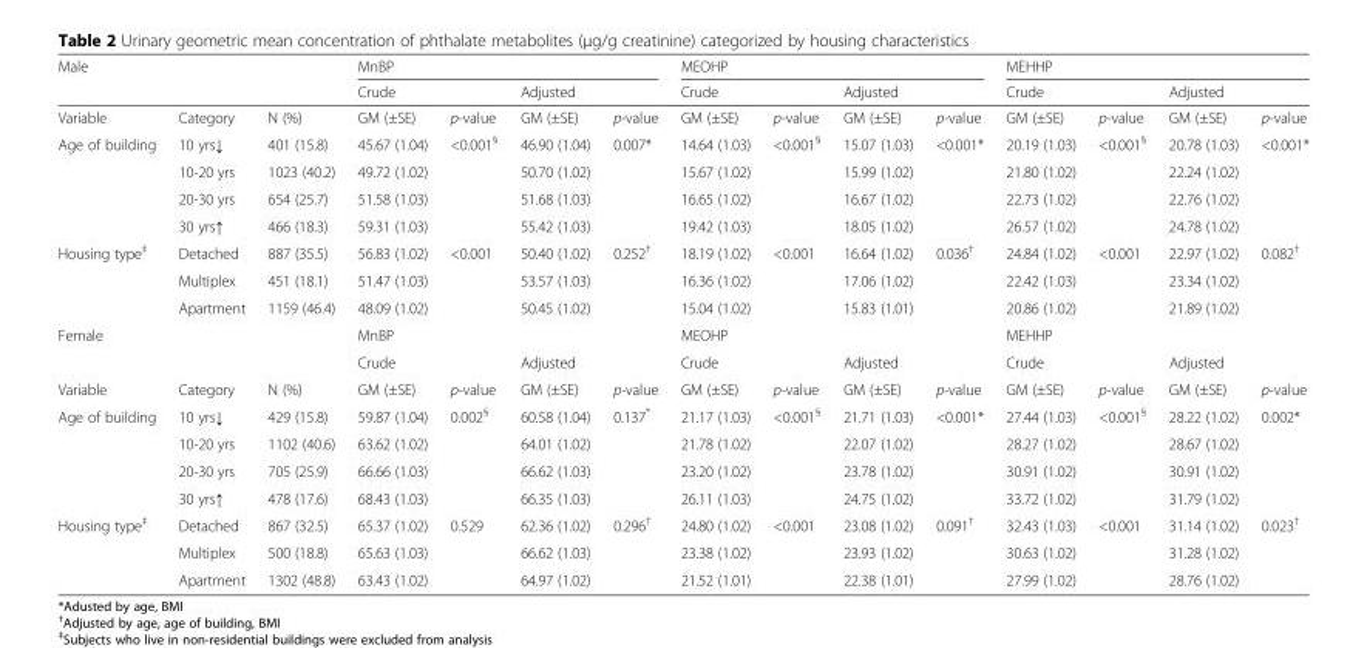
<table><thead><tr><td rowspan="2" colspan="3">Male</td><td colspan="4">MnBP</td><td colspan="4">MEOHP</td><td colspan="4">MEHHP</td></tr><tr><td colspan="2">Crude</td><td colspan="2">Adjusted</td><td colspan="2">Crude</td><td colspan="2">Adjusted</td><td colspan="2">Crude</td><td colspan="2">Adjusted</td></tr><tr><td>Variable</td><td>Category</td><td>N (%)</td><td>GM (±SE)</td><td>p-value</td><td>GM (±SE)</td><td>p-value</td><td>GM (±SE)</td><td>p-value</td><td>GM (±SE)</td><td>p-value</td><td>GM (±SE)</td><td>p-value</td><td>GM (±SE)</td><td>p-value</td></tr></thead><tbody><tr><td rowspan="4">Age of building</td><td>10 yrs↓</td><td>401 (15.8)</td><td>45.67 (1.04)</td><td>&lt;0.001<sup>§</sup></td><td>46.90 (1.04)</td><td>0.007*</td><td>14.64 (1.03)</td><td rowspan="4">&lt;0.001<sup>§</sup></td><td>15.07 (1.03)</td><td rowspan="4">&lt;0.001*</td><td>20.19 (1.03)</td><td rowspan="4">&lt;0.001<sup>§</sup></td><td>20.78 (1.03)</td><td rowspan="4">&lt;0.001*</td></tr><tr><td>10-20 yrs</td><td>1023 (40.2)</td><td>49.72 (1.02)</td><td></td><td>50.70 (1.02)</td><td></td><td>15.67 (1.02)</td><td>15.99 (1.02)</td><td>21.80 (1.02)</td><td>22.24 (1.02)</td></tr><tr><td>20-30 yrs</td><td>654 (25.7)</td><td>51.58 (1.03)</td><td></td><td>51.68 (1.03)</td><td></td><td>16.65 (1.02)</td><td>16.67 (1.02)</td><td>22.73 (1.02)</td><td>22.76 (1.02)</td></tr><tr><td>30 yrs↑</td><td>466 (18.3)</td><td>59.31 (1.03)</td><td></td><td>55.42 (1.03)</td><td></td><td>19.42 (1.03)</td><td>18.05 (1.02)</td><td>26.57 (1.02)</td><td>24.78 (1.02)</td></tr><tr><td rowspan="3">Housing type<sup>‡</sup></td><td>Detached</td><td>887 (35.5)</td><td>56.83 (1.02)</td><td rowspan="3">&lt;0.001</td><td>50.40 (1.02)</td><td>0.252<sup>†</sup></td><td>18.19 (1.02)</td><td rowspan="3">&lt;0.001</td><td>16.64 (1.02)</td><td rowspan="3">0.036<sup>†</sup></td><td>24.84 (1.02)</td><td>&lt;0.001</td><td>22.97 (1.02)</td><td rowspan="3">0.082<sup>†</sup></td></tr><tr><td>Multiplex</td><td>451 (18.1)</td><td>51.47 (1.03)</td><td>53.57 (1.03)</td><td></td><td>16.36 (1.02)</td><td>17.06 (1.02)</td><td>22.42 (1.03)</td><td></td><td>23.34 (1.02)</td></tr><tr><td>Apartment</td><td>1159 (46.4)</td><td>48.09 (1.02)</td><td>50.45 (1.02)</td><td></td><td>15.04 (1.02)</td><td>15.83 (1.01)</td><td>20.86 (1.02)</td><td></td><td>21.89 (1.02)</td></tr><tr><td rowspan="2" colspan="3">Female</td><td colspan="4">MnBP</td><td colspan="4">MEOHP</td><td colspan="4">MEHHP</td></tr><tr><td colspan="2">Crude</td><td colspan="2">Adjusted</td><td colspan="2">Crude</td><td colspan="2">Adjusted</td><td colspan="2">Crude</td><td colspan="2">Adjusted</td></tr><tr><td>Variable</td><td>Category</td><td>N (%)</td><td>GM (±SE)</td><td>p-value</td><td>GM (±SE)</td><td>p-value</td><td>GM (±SE)</td><td>p-value</td><td>GM (±SE)</td><td>p-value</td><td>GM (±SE)</td><td>p-value</td><td>GM (±SE)</td><td>p-value</td></tr><tr><td rowspan="4">Age of building</td><td>10 yrs↓</td><td>429 (15.8)</td><td>59.87 (1.04)</td><td rowspan="4">0.002<sup>§</sup></td><td>60.58 (1.04)</td><td rowspan="4">0.137*</td><td>21.17 (1.03)</td><td rowspan="4">&lt;0.001<sup>§</sup></td><td>21.71 (1.03)</td><td rowspan="4">&lt;0.001*</td><td>27.44 (1.03)</td><td rowspan="4">&lt;0.001<sup>§</sup></td><td>28.22 (1.02)</td><td rowspan="4">0.002*</td></tr><tr><td>10-20 yrs</td><td>1102 (40.6)</td><td>63.62 (1.02)</td><td>64.01 (1.02)</td><td>21.78 (1.02)</td><td>22.07 (1.02)</td><td>28.27 (1.02)</td><td>28.67 (1.02)</td></tr><tr><td>20-30 yrs</td><td>705 (25.9)</td><td>66.66 (1.03)</td><td>66.62 (1.03)</td><td>23.20 (1.02)</td><td>23.78 (1.02)</td><td>30.91 (1.02)</td><td>30.91 (1.02)</td></tr><tr><td>30 yrs↑</td><td>478 (17.6)</td><td>68.43 (1.03)</td><td>66.35 (1.03)</td><td>26.11 (1.03)</td><td>24.75 (1.02)</td><td>33.72 (1.02)</td><td>31.79 (1.02)</td></tr><tr><td rowspan="3">Housing type<sup>‡</sup></td><td>Detached</td><td>867 (32.5)</td><td>65.37 (1.02)</td><td rowspan="3">0.529</td><td>62.36 (1.02)</td><td rowspan="3">0.296<sup>†</sup></td><td>24.80 (1.02)</td><td rowspan="3">&lt;0.001</td><td>23.08 (1.02)</td><td rowspan="3">0.091<sup>†</sup></td><td>32.43 (1.03)</td><td rowspan="3">&lt;0.001</td><td>31.14 (1.02)</td><td rowspan="3">0.023<sup>†</sup></td></tr><tr><td>Multiplex</td><td>500 (18.8)</td><td>65.63 (1.03)</td><td>66.62 (1.03)</td><td>23.38 (1.02)</td><td>23.93 (1.02)</td><td>30.63 (1.02)</td><td>31.28 (1.02)</td></tr><tr><td>Apartment</td><td>1302 (48.8)</td><td>63.43 (1.02)</td><td>64.97 (1.02)</td><td>21.52 (1.01)</td><td>22.38 (1.01)</td><td>27.99 (1.02)</td><td>28.76 (1.02)</td></tr></tbody></table>